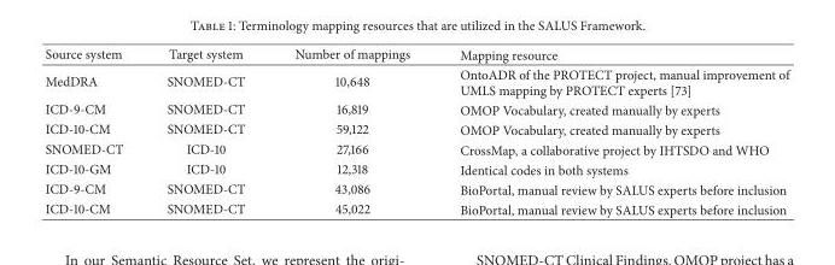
<table><thead><tr><td>Source system</td><td>Target system</td><td>Number of mappings</td><td>Mapping resource</td></tr></thead><tbody><tr><td>MedDRA</td><td>SNOMED-CT</td><td>10,648</td><td>OntoADR of the PROTECT project, manual improvement of UMLS mapping by PROTECT experts [73]</td></tr><tr><td>ICD-9-CM</td><td>SNOMED-CT</td><td>16,819</td><td>OMOP Vocabulary, created manually by experts</td></tr><tr><td>ICD-10-CM</td><td>SNOMED-CT</td><td>59,122</td><td>OMOP Vocabulary, created manually by experts</td></tr><tr><td>SNOMED-CT</td><td>ICD-10</td><td>27,166</td><td>CrossMap, a collaborative project by IHTSDO and WHO</td></tr><tr><td>ICD-10-GM</td><td>ICD-10</td><td>12,318</td><td>Identical codes in both systems</td></tr><tr><td>ICD-9-CM</td><td>SNOMED-CT</td><td>43,086</td><td>BioPortal, manual review by SALUS experts before inclusion</td></tr><tr><td>ICD-10-CM</td><td>SNOMED-CT</td><td>45,022</td><td>BioPortal, manual review by SALUS experts before inclusion</td></tr></tbody></table>